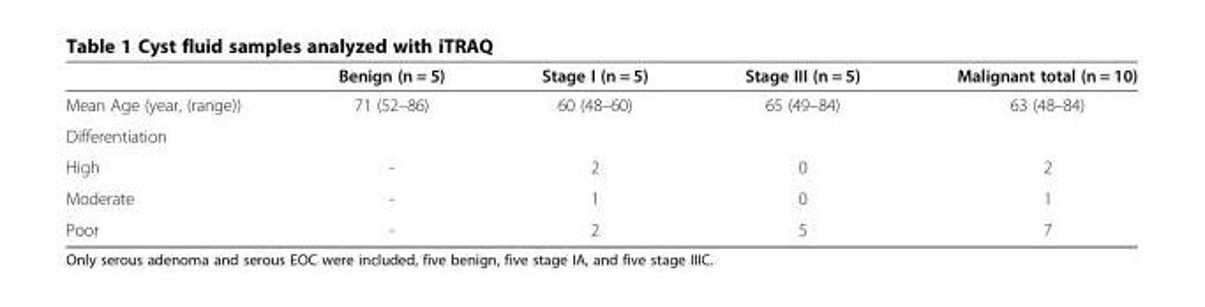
<table><thead><tr><td></td><td>Benign (n = 5)</td><td>Stage I (n = 5)</td><td>Stage III (n = 5)</td><td>Malignant total (n = 10)</td></tr></thead><tbody><tr><td>Mean Age (year, (range))</td><td>71 (52–86)</td><td>60 (48–60)</td><td>65 (49–84)</td><td>63 (48–84)</td></tr><tr><td colspan="5">Differentiation</td></tr><tr><td>High</td><td>-</td><td>2</td><td>0</td><td>2</td></tr><tr><td>Moderate</td><td>-</td><td>1</td><td>0</td><td>1</td></tr><tr><td>Poor</td><td>-</td><td>2</td><td>5</td><td>7</td></tr></tbody></table>